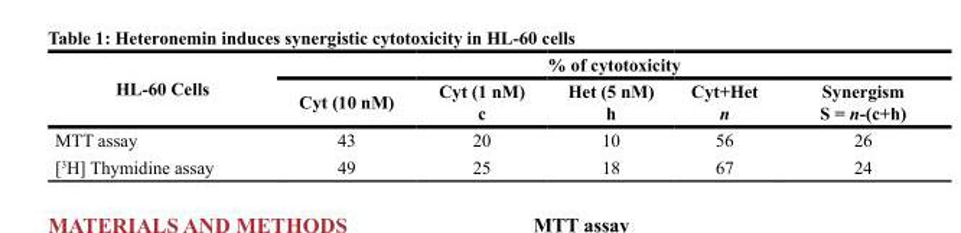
<table><thead><tr><td rowspan="2">HL-60 Cells</td><td colspan="5">% of cytotoxicity</td></tr><tr><td>Cyt (10 nM)</td><td>Cyt (1 nM) c</td><td>Het (5 nM) h</td><td>Cyt+Het n</td><td>Synergism S = n-(c+h)</td></tr></thead><tbody><tr><td>MTT assay</td><td>43</td><td>20</td><td>10</td><td>56</td><td>26</td></tr><tr><td>[<sup>3</sup>H] Thymidine assay</td><td>49</td><td>25</td><td>18</td><td>67</td><td>24</td></tr></tbody></table>